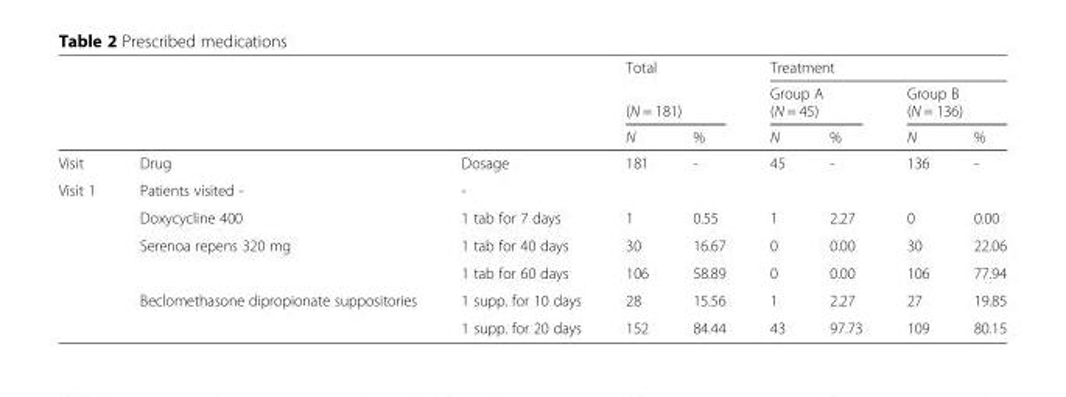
<table><thead><tr><td rowspan="4"></td><td rowspan="4"></td><td rowspan="4"></td><td rowspan="3" colspan="2">Total (N = 181)</td><td colspan="4">Treatment</td></tr><tr><td rowspan="2" colspan="2">Group A (N = 45)</td><td rowspan="2" colspan="2">Group B (N = 136)</td></tr><tr></tr><tr><td>N</td><td>%</td><td>N</td><td>%</td><td>N</td><td>%</td></tr></thead><tbody><tr><td>Visit</td><td>Drug</td><td>Dosage</td><td rowspan="2">181</td><td rowspan="2">-</td><td rowspan="2">45</td><td rowspan="2">-</td><td rowspan="2">136</td><td rowspan="2">-</td></tr><tr><td rowspan="6">Visit 1</td><td>Patients visited -</td><td>-</td></tr><tr><td>Doxycycline 400</td><td>1 tab for 7 days</td><td>1</td><td>0.55</td><td>1</td><td>2.27</td><td>0</td><td>0.00</td></tr><tr><td rowspan="2">Serenoa repens 320 mg</td><td>1 tab for 40 days</td><td>30</td><td>16.67</td><td>0</td><td>0.00</td><td>30</td><td>22.06</td></tr><tr><td>1 tab for 60 days</td><td>106</td><td>58.89</td><td>0</td><td>0.00</td><td>106</td><td>77.94</td></tr><tr><td rowspan="2">Beclomethasone dipropionate suppositories</td><td>1 supp. for 10 days</td><td>28</td><td>15.56</td><td>1</td><td>2.27</td><td>27</td><td>19.85</td></tr><tr><td>1 supp. for 20 days</td><td>152</td><td>84.44</td><td>43</td><td>97.73</td><td>109</td><td>80.15</td></tr></tbody></table>